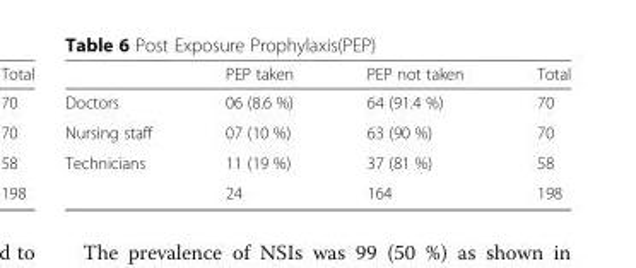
<table><thead><tr><td></td><td>PEP taken</td><td>PEP not taken</td><td>Total</td></tr></thead><tbody><tr><td>Doctors</td><td>06 (8.6 %)</td><td>64 (91.4 %)</td><td>70</td></tr><tr><td>Nursing staff</td><td>07 (10 %)</td><td>63 (90 %)</td><td>70</td></tr><tr><td rowspan="2">Technicians</td><td>11 (19 %)</td><td>37 (81 %)</td><td>58</td></tr><tr><td>24</td><td>164</td><td>198</td></tr></tbody></table>